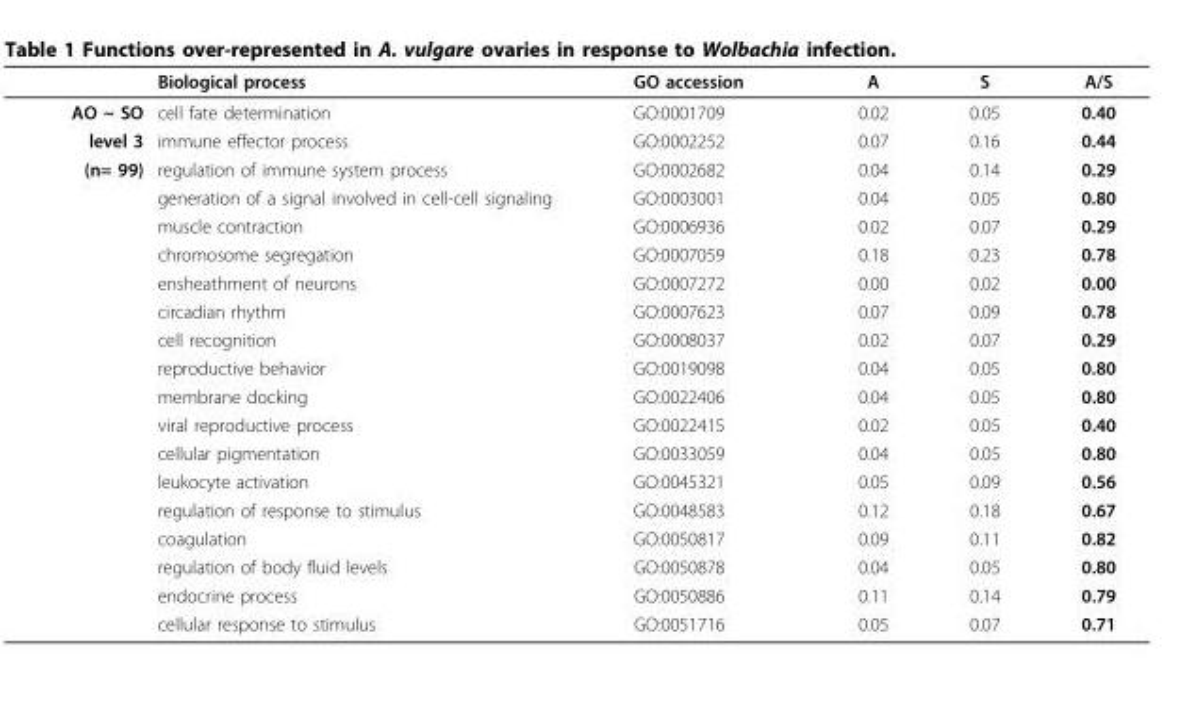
<table><thead><tr><td></td><td>Biological process</td><td>GO accession</td><td>A</td><td>S</td><td>A/S</td></tr></thead><tbody><tr><td>AO ~ SO</td><td>cell fate determination</td><td>GO:0001709</td><td>0.02</td><td>0.05</td><td>0.40</td></tr><tr><td>level 3</td><td>immune effector process</td><td>GO:0002252</td><td>0.07</td><td>0.16</td><td>0.44</td></tr><tr><td rowspan="17">(n= 99)</td><td>regulation of immune system process</td><td>GO:0002682</td><td>0.04</td><td>0.14</td><td>0.29</td></tr><tr><td>generation of a signal involved in cell-cell signaling</td><td>GO:0003001</td><td>0.04</td><td>0.05</td><td>0.80</td></tr><tr><td>muscle contraction</td><td>GO:0006936</td><td>0.02</td><td>0.07</td><td>0.29</td></tr><tr><td>chromosome segregation</td><td>GO:0007059</td><td>0.18</td><td>0.23</td><td>0.78</td></tr><tr><td>ensheathment of neurons</td><td>GO:0007272</td><td>0.00</td><td>0.02</td><td>0.00</td></tr><tr><td>circadian rhythm</td><td>GO:0007623</td><td>0.07</td><td>0.09</td><td>0.78</td></tr><tr><td>cell recognition</td><td>GO:0008037</td><td>0.02</td><td>0.07</td><td>0.29</td></tr><tr><td>reproductive behavior</td><td>GO:0019098</td><td>0.04</td><td>0.05</td><td>0.80</td></tr><tr><td>membrane docking</td><td>GO:0022406</td><td>0.04</td><td>0.05</td><td>0.80</td></tr><tr><td>viral reproductive process</td><td>GO:0022415</td><td>0.02</td><td>0.05</td><td>0.40</td></tr><tr><td>cellular pigmentation</td><td>GO:0033059</td><td>0.04</td><td>0.05</td><td>0.80</td></tr><tr><td>leukocyte activation</td><td>GO:0045321</td><td>0.05</td><td>0.09</td><td>0.56</td></tr><tr><td>regulation of response to stimulus</td><td>GO:0048583</td><td>0.12</td><td>0.18</td><td>0.67</td></tr><tr><td>coagulation</td><td>GO:0050817</td><td>0.09</td><td>0.11</td><td>0.82</td></tr><tr><td>regulation of body fluid levels</td><td>GO:0050878</td><td>0.04</td><td>0.05</td><td>0.80</td></tr><tr><td>endocrine process</td><td>GO:0050886</td><td>0.11</td><td>0.14</td><td>0.79</td></tr><tr><td>cellular response to stimulus</td><td>GO:0051716</td><td>0.05</td><td>0.07</td><td>0.71</td></tr></tbody></table>